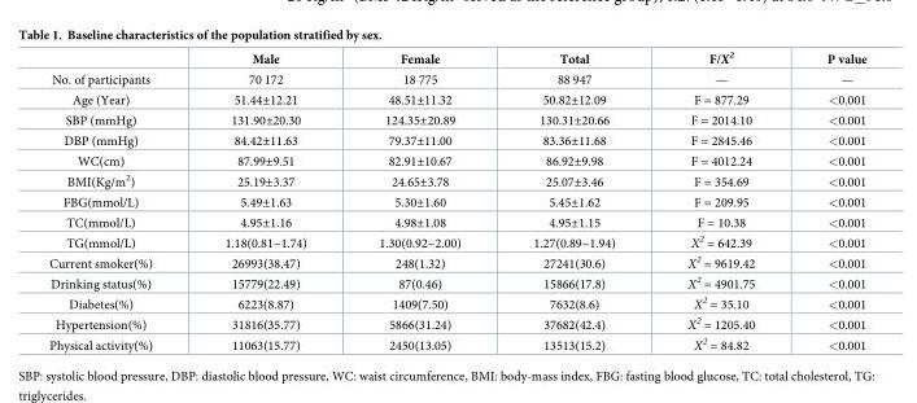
<table><thead><tr><td></td><td>Male</td><td>Female</td><td>Total</td><td>F/X<sup>2</sup></td><td>P value</td></tr></thead><tbody><tr><td>No. of participants</td><td>70 172</td><td>18 775</td><td>88 947</td><td>—</td><td>—</td></tr><tr><td>Age (Year)</td><td>51.44±12.21</td><td>48.51±11.32</td><td>50.82±12.09</td><td>F = 877.29</td><td>&lt;0.001</td></tr><tr><td>SBP (mmHg)</td><td>131.90±20.30</td><td>124.35±20.89</td><td>130.31±20.66</td><td>F = 2014.10</td><td>&lt;0.001</td></tr><tr><td>DBP (mmHg)</td><td>84.42±11.63</td><td>79.37±11.00</td><td>83.36±11.68</td><td>F = 2845.46</td><td>&lt;0.001</td></tr><tr><td>WC(cm)</td><td>87.99±9.51</td><td>82.91±10.67</td><td>86.92±9.98</td><td>F = 4012.24</td><td>&lt;0.001</td></tr><tr><td>BMI(Kg/m<sup>2</sup>)</td><td>25.19±3.37</td><td>24.65±3.78</td><td>25.07±3.46</td><td>F = 354.69</td><td>&lt;0.001</td></tr><tr><td>FBG(mmol/L)</td><td>5.49±1.63</td><td>5.30±1.60</td><td>5.45±1.62</td><td>F = 209.95</td><td>&lt;0.001</td></tr><tr><td>TC(mmol/L)</td><td>4.95±1.16</td><td>4.98±1.08</td><td>4.95±1.15</td><td>F = 10.38</td><td>&lt;0.001</td></tr><tr><td>TG(mmol/L)</td><td>1.18(0.81~1.74)</td><td>1.30(0.92~2.00)</td><td>1.27(0.89~1.94)</td><td>X<sup>2</sup> = 642.39</td><td>&lt;0.001</td></tr><tr><td>Current smoker(%)</td><td>26993(38.47)</td><td>248(1.32)</td><td>27241(30.6)</td><td>X<sup>2</sup> = 9619.42</td><td>&lt;0.001</td></tr><tr><td>Drinking status(%)</td><td>15779(22.49)</td><td>87(0.46)</td><td>15866(17.8)</td><td>X<sup>2</sup> = 4901.75</td><td>&lt;0.001</td></tr><tr><td>Diabetes(%)</td><td>6223(8.87)</td><td>1409(7.50)</td><td>7632(8.6)</td><td>X<sup>2</sup> = 35.10</td><td>&lt;0.001</td></tr><tr><td>Hypertension(%)</td><td>31816(35.77)</td><td>5866(31.24)</td><td>37682(42.4)</td><td>X<sup>2</sup> = 1205.40</td><td>&lt;0.001</td></tr><tr><td>Physical activity(%)</td><td>11063(15.77)</td><td>2450(13.05)</td><td>13513(15.2)</td><td>X<sup>2</sup> = 84.82</td><td>&lt;0.001</td></tr></tbody></table>